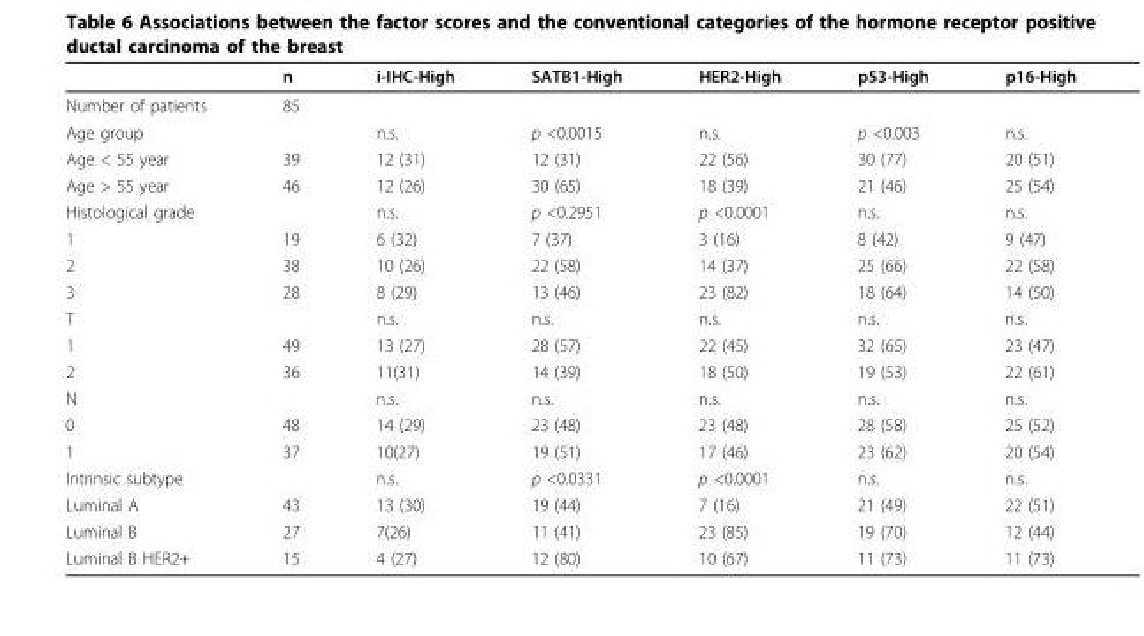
<table><thead><tr><td></td><td>n</td><td>i-IHC-High</td><td>SATB1-High</td><td>HER2-High</td><td>p53-High</td><td>p16-High</td></tr></thead><tbody><tr><td>Number of patients</td><td>85</td><td></td><td></td><td></td><td></td><td></td></tr><tr><td>Age group</td><td></td><td>n.s.</td><td>p &lt;0.0015</td><td>n.s.</td><td>p &lt;0.003</td><td>n.s.</td></tr><tr><td>Age &lt; 55 year</td><td>39</td><td>12 (31)</td><td>12 (31)</td><td>22 (56)</td><td>30 (77)</td><td>20 (51)</td></tr><tr><td>Age &gt; 55 year</td><td>46</td><td>12 (26)</td><td>30 (65)</td><td>18 (39)</td><td>21 (46)</td><td>25 (54)</td></tr><tr><td>Histological grade</td><td></td><td>n.s.</td><td>p &lt;0.2951</td><td>p &lt;0.0001</td><td>n.s.</td><td>n.s.</td></tr><tr><td>1</td><td>19</td><td>6 (32)</td><td>7 (37)</td><td>3 (16)</td><td>8 (42)</td><td>9 (47)</td></tr><tr><td>2</td><td>38</td><td>10 (26)</td><td>22 (58)</td><td>14 (37)</td><td>25 (66)</td><td>22 (58)</td></tr><tr><td>3</td><td>28</td><td>8 (29)</td><td>13 (46)</td><td>23 (82)</td><td>18 (64)</td><td>14 (50)</td></tr><tr><td>T</td><td></td><td>n.s.</td><td>n.s.</td><td>n.s.</td><td>n.s.</td><td>n.s.</td></tr><tr><td>1</td><td>49</td><td>13 (27)</td><td>28 (57)</td><td>22 (45)</td><td>32 (65)</td><td>23 (47)</td></tr><tr><td>2</td><td>36</td><td>11(31)</td><td>14 (39)</td><td>18 (50)</td><td>19 (53)</td><td>22 (61)</td></tr><tr><td>N</td><td></td><td>n.s.</td><td>n.s.</td><td>n.s.</td><td>n.s.</td><td>n.s.</td></tr><tr><td>0</td><td>48</td><td>14 (29)</td><td>23 (48)</td><td>23 (48)</td><td>28 (58)</td><td>25 (52)</td></tr><tr><td>1</td><td>37</td><td>10(27)</td><td>19 (51)</td><td>17 (46)</td><td>23 (62)</td><td>20 (54)</td></tr><tr><td>Intrinsic subtype</td><td></td><td>n.s.</td><td>p &lt;0.0331</td><td>p &lt;0.0001</td><td>n.s.</td><td>n.s.</td></tr><tr><td>Luminal A</td><td>43</td><td>13 (30)</td><td>19 (44)</td><td>7 (16)</td><td>21 (49)</td><td>22 (51)</td></tr><tr><td>Luminal B</td><td>27</td><td>7(26)</td><td>11 (41)</td><td>23 (85)</td><td>19 (70)</td><td>12 (44)</td></tr><tr><td>Luminal B HER2+</td><td>15</td><td>4 (27)</td><td>12 (80)</td><td>10 (67)</td><td>11 (73)</td><td>11 (73)</td></tr></tbody></table>